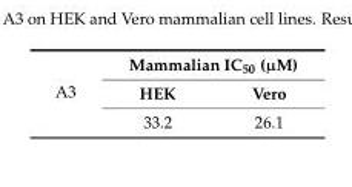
<table><tbody><tr><td rowspan="3">A3</td><td colspan="2">Mammalian IC<sub>50</sub> (µM)</td></tr><tr><td>HEK</td><td>Vero</td></tr><tr><td>33.2</td><td>26.1</td></tr></tbody></table>